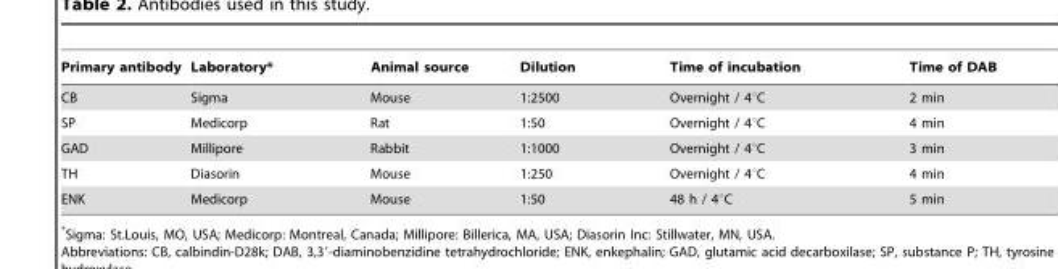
<table><thead><tr><td>Primary antibody</td><td>Laboratory*</td><td>Animal source</td><td>Dilution</td><td>Time of incubation</td><td>Time of DAB</td></tr></thead><tbody><tr><td>CB</td><td>Sigma</td><td>Mouse</td><td>1:2500</td><td>Overnight / 4°C</td><td>2 min</td></tr><tr><td>SP</td><td>Medicorp</td><td>Rat</td><td>1:50</td><td>Overnight / 4°C</td><td>4 min</td></tr><tr><td>GAD</td><td>Millipore</td><td>Rabbit</td><td>1:1000</td><td>Overnight / 4°C</td><td>3 min</td></tr><tr><td>TH</td><td>Diasorin</td><td>Mouse</td><td>1:250</td><td>Overnight / 4°C</td><td>4 min</td></tr><tr><td>ENK</td><td>Medicorp</td><td>Mouse</td><td>1:50</td><td>48 h / 4°C</td><td>5 min</td></tr></tbody></table>